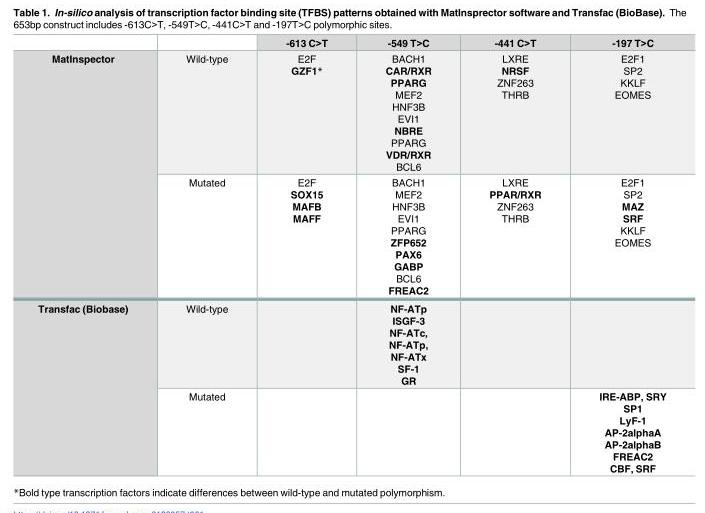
<table><thead><tr><td></td><td></td><td>-613 C&gt;T</td><td>-549 T&gt;C</td><td>-441 C&gt;T</td><td>-197 T&gt;C</td></tr></thead><tbody><tr><td rowspan="2">MatInspector</td><td>Wild-type</td><td>E2F GZF1*</td><td>BACH1 CAR/RXR PPARG MEF2 HNF3B EVI1 NBRE PPARG VDR/RXR BCL6</td><td>LXRE NRSF ZNF263 THRB</td><td>E2F1 SP2 KKLF EOMES</td></tr><tr><td>Mutated</td><td>E2F SOX15 MAFB MAFF</td><td>BACH1 MEF2 HNF3B EVI1 PPARG ZFP652 PAX6 GABP BCL6 FREAC2</td><td>LXRE PPAR/RXR ZNF263 THRB</td><td>E2F1 SP2 MAZ SRF KKLF EOMES</td></tr><tr><td rowspan="2">Transfac (Biobase)</td><td>Wild-type</td><td></td><td>NF-ATp ISGF-3 NF-ATc, NF-ATp, NF-ATx SF-1 GR</td><td></td><td></td></tr><tr><td>Mutated</td><td></td><td></td><td></td><td>IRE-ABP, SRY SP1 LyF-1 AP-2alphaA AP-2alphaB FREAC2 CBF, SRF</td></tr></tbody></table>